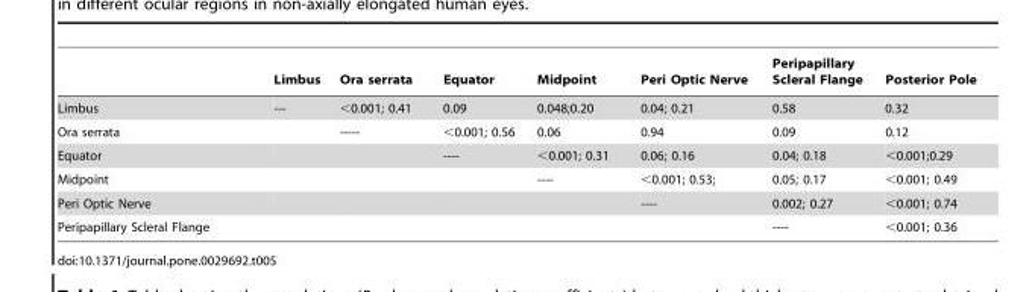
<table><thead><tr><td></td><td>Limbus</td><td>Ora serrata</td><td>Equator</td><td>Midpoint</td><td>Peri Optic Nerve</td><td>Peripapillary Scleral Flange</td><td>Posterior Pole</td></tr></thead><tbody><tr><td>Limbus</td><td>---</td><td>&lt;0.001; 0.41</td><td>0.09</td><td>0.048;0.20</td><td>0.04; 0.21</td><td>0.58</td><td>0.32</td></tr><tr><td>Ora serrata</td><td></td><td>-----</td><td>&lt;0.001; 0.56</td><td>0.06</td><td>0.94</td><td>0.09</td><td>0.12</td></tr><tr><td>Equator</td><td></td><td></td><td>----</td><td>&lt;0.001; 0.31</td><td>0.06; 0.16</td><td>0.04; 0.18</td><td>&lt;0.001;0.29</td></tr><tr><td>Midpoint</td><td></td><td></td><td></td><td>----</td><td>&lt;0.001; 0.53;</td><td>0.05; 0.17</td><td>&lt;0.001; 0.49</td></tr><tr><td>Peri Optic Nerve</td><td></td><td></td><td></td><td></td><td>----</td><td>0.002; 0.27</td><td>&lt;0.001; 0.74</td></tr><tr><td>Peripapillary Scleral Flange</td><td></td><td></td><td></td><td></td><td></td><td>----</td><td>&lt;0.001; 0.36</td></tr></tbody></table>